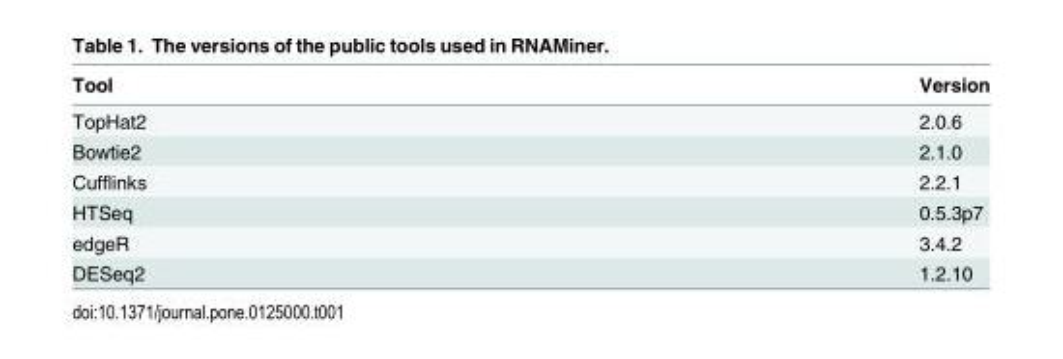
<table><thead><tr><td>Tool</td><td>Version</td></tr></thead><tbody><tr><td>TopHat2</td><td>2.0.6</td></tr><tr><td>Bowtie2</td><td>2.1.0</td></tr><tr><td>Cufflinks</td><td>2.2.1</td></tr><tr><td>HTSeq</td><td>0.5.3p7</td></tr><tr><td>edgeR</td><td>3.4.2</td></tr><tr><td>DESeq2</td><td>1.2.10</td></tr></tbody></table>